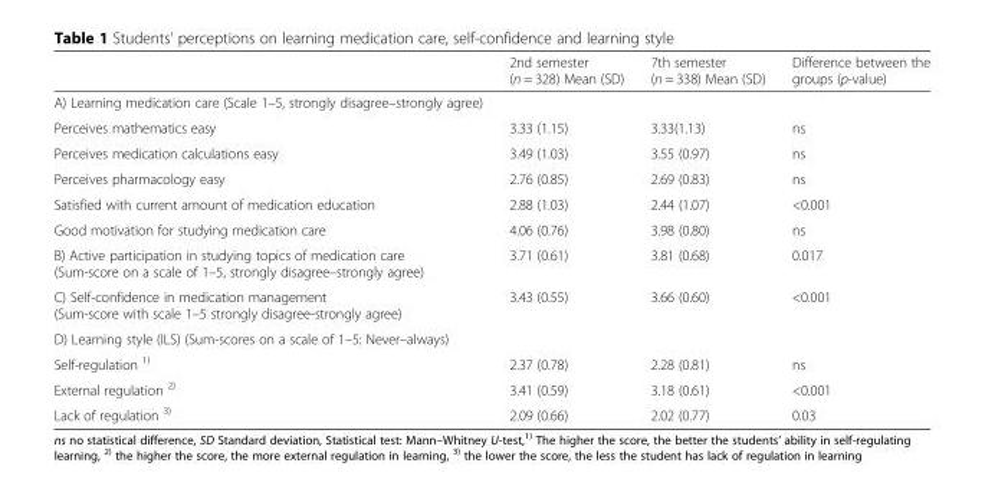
<table><thead><tr><td></td><td>2nd semester (n = 328) Mean (SD)</td><td>7th semester (n = 338) Mean (SD)</td><td>Difference between the groups (p-value)</td></tr></thead><tbody><tr><td colspan="4">A) Learning medication care (Scale 1–5, strongly disagree–strongly agree)</td></tr><tr><td>Perceives mathematics easy</td><td>3.33 (1.15)</td><td>3.33(1.13)</td><td>ns</td></tr><tr><td>Perceives medication calculations easy</td><td>3.49 (1.03)</td><td>3.55 (0.97)</td><td>ns</td></tr><tr><td>Perceives pharmacology easy</td><td>2.76 (0.85)</td><td>2.69 (0.83)</td><td>ns</td></tr><tr><td>Satisfied with current amount of medication education</td><td>2.88 (1.03)</td><td>2.44 (1.07)</td><td>&lt;0.001</td></tr><tr><td>Good motivation for studying medication care</td><td>4.06 (0.76)</td><td>3.98 (0.80)</td><td>ns</td></tr><tr><td>B) Active participation in studying topics of medication care (Sum-score on a scale of 1–5, strongly disagree–strongly agree)</td><td>3.71 (0.61)</td><td>3.81 (0.68)</td><td>0.017</td></tr><tr><td>C) Self-confidence in medication management (Sum-score with scale 1–5 strongly disagree-strongly agree)</td><td>3.43 (0.55)</td><td>3.66 (0.60)</td><td>&lt;0.001</td></tr><tr><td colspan="4">D) Learning style (ILS) (Sum-scores on a scale of 1–5: Never–always)</td></tr><tr><td>Self-regulation <sup>1)</sup></td><td>2.37 (0.78)</td><td>2.28 (0.81)</td><td>ns</td></tr><tr><td>External regulation <sup>2)</sup></td><td>3.41 (0.59)</td><td>3.18 (0.61)</td><td>&lt;0.001</td></tr><tr><td>Lack of regulation <sup>3)</sup></td><td>2.09 (0.66)</td><td>2.02 (0.77)</td><td>0.03</td></tr></tbody></table>